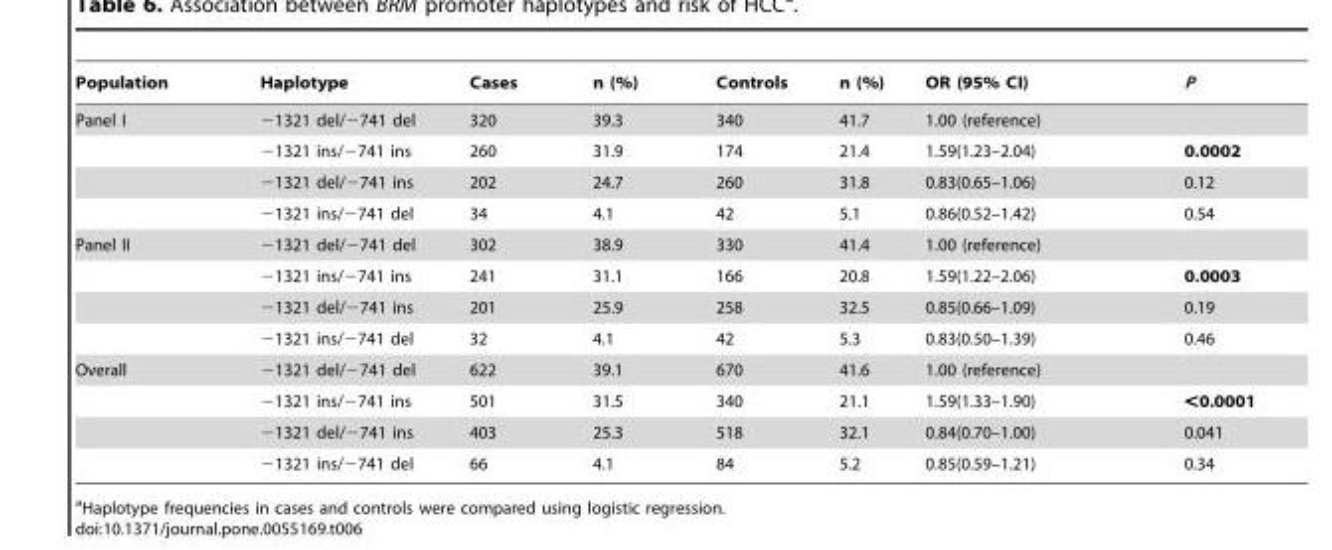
<table><thead><tr><td>Population</td><td>Haplotype</td><td>Cases</td><td>n (%)</td><td>Controls</td><td>n (%)</td><td>OR (95% CI)</td><td>P</td></tr></thead><tbody><tr><td rowspan="4">Panel I</td><td>−1321 del/−741 del</td><td>320</td><td>39.3</td><td>340</td><td>41.7</td><td>1.00 (reference)</td><td></td></tr><tr><td>−1321 ins/−741 ins</td><td>260</td><td>31.9</td><td>174</td><td>21.4</td><td>1.59(1.23–2.04)</td><td>0.0002</td></tr><tr><td>−1321 del/−741 ins</td><td>202</td><td>24.7</td><td>260</td><td>31.8</td><td>0.83(0.65–1.06)</td><td>0.12</td></tr><tr><td>−1321 ins/−741 del</td><td>34</td><td>4.1</td><td>42</td><td>5.1</td><td>0.86(0.52–1.42)</td><td>0.54</td></tr><tr><td rowspan="4">Panel II</td><td>−1321 del/−741 del</td><td>302</td><td>38.9</td><td>330</td><td>41.4</td><td>1.00 (reference)</td><td></td></tr><tr><td>−1321 ins/−741 ins</td><td>241</td><td>31.1</td><td>166</td><td>20.8</td><td>1.59(1.22–2.06)</td><td>0.0003</td></tr><tr><td>−1321 del/−741 ins</td><td>201</td><td>25.9</td><td>258</td><td>32.5</td><td>0.85(0.66–1.09)</td><td>0.19</td></tr><tr><td>−1321 ins/−741 del</td><td>32</td><td>4.1</td><td>42</td><td>5.3</td><td>0.83(0.50–1.39)</td><td>0.46</td></tr><tr><td rowspan="4">Overall</td><td>−1321 del/−741 del</td><td>622</td><td>39.1</td><td>670</td><td>41.6</td><td>1.00 (reference)</td><td></td></tr><tr><td>−1321 ins/−741 ins</td><td>501</td><td>31.5</td><td>340</td><td>21.1</td><td>1.59(1.33–1.90)</td><td>&lt;0.0001</td></tr><tr><td>−1321 del/−741 ins</td><td>403</td><td>25.3</td><td>518</td><td>32.1</td><td>0.84(0.70–1.00)</td><td>0.041</td></tr><tr><td>−1321 ins/−741 del</td><td>66</td><td>4.1</td><td>84</td><td>5.2</td><td>0.85(0.59–1.21)</td><td>0.34</td></tr></tbody></table>